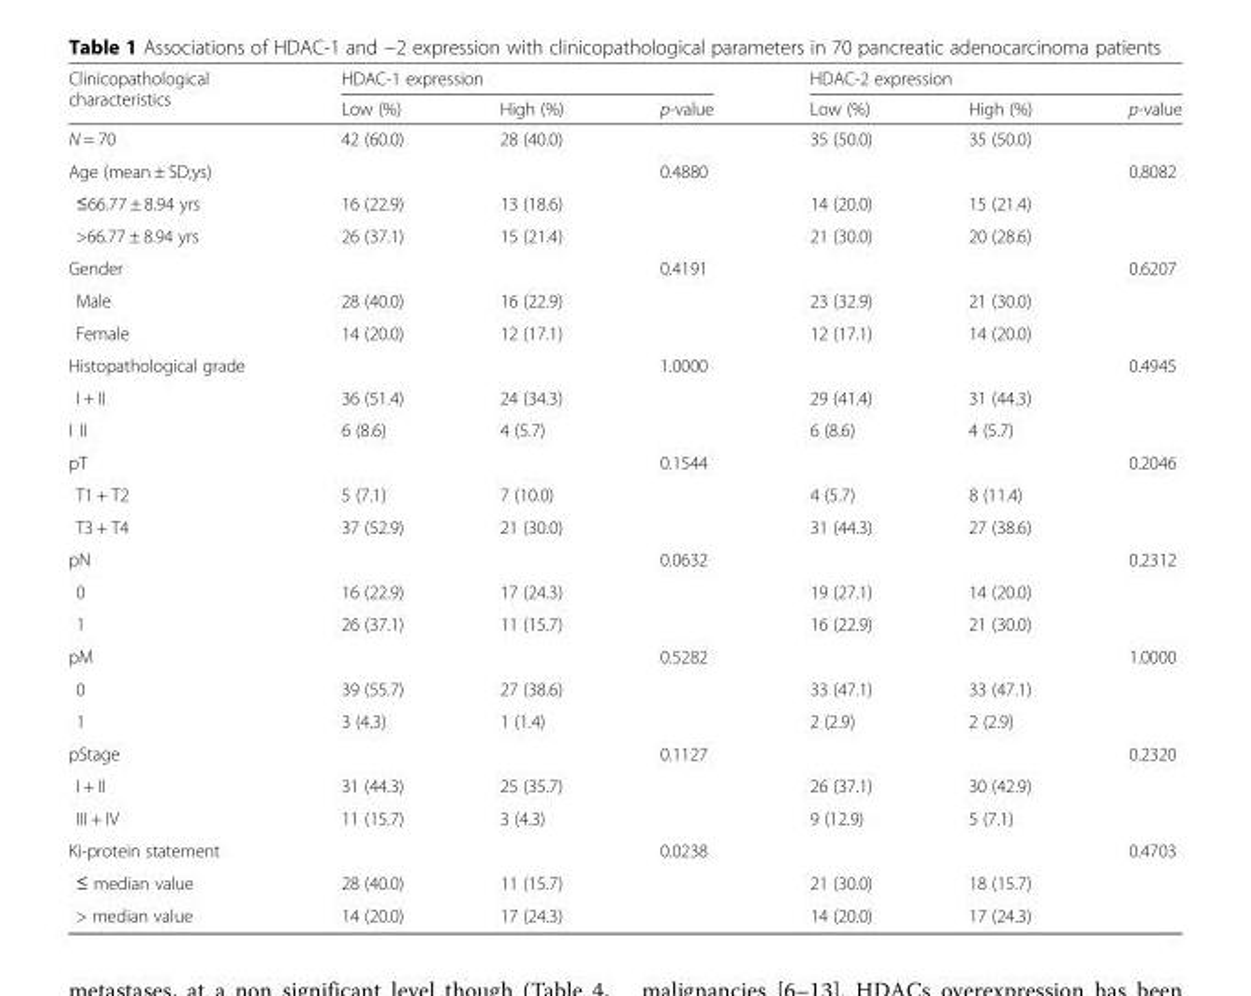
<table><thead><tr><td rowspan="2">Clinicopathological characteristics</td><td colspan="3">HDAC-1 expression</td><td colspan="3">HDAC-2 expression</td></tr><tr><td>Low (%)</td><td>High (%)</td><td>p-value</td><td>Low (%)</td><td>High (%)</td><td>p-value</td></tr></thead><tbody><tr><td>N = 70</td><td>42 (60.0)</td><td>28 (40.0)</td><td></td><td>35 (50.0)</td><td>35 (50.0)</td><td></td></tr><tr><td>Age (mean ± SD;ys)</td><td></td><td></td><td>0.4880</td><td></td><td></td><td>0.8082</td></tr><tr><td>≤66.77 ± 8.94 yrs</td><td>16 (22.9)</td><td>13 (18.6)</td><td></td><td>14 (20.0)</td><td>15 (21.4)</td><td></td></tr><tr><td>&gt;66.77 ± 8.94 yrs</td><td>26 (37.1)</td><td>15 (21.4)</td><td></td><td>21 (30.0)</td><td>20 (28.6)</td><td></td></tr><tr><td>Gender</td><td></td><td></td><td>0.4191</td><td></td><td></td><td>0.6207</td></tr><tr><td>Male</td><td>28 (40.0)</td><td>16 (22.9)</td><td></td><td>23 (32.9)</td><td>21 (30.0)</td><td></td></tr><tr><td>Female</td><td>14 (20.0)</td><td>12 (17.1)</td><td></td><td>12 (17.1)</td><td>14 (20.0)</td><td></td></tr><tr><td>Histopathological grade</td><td></td><td></td><td>1.0000</td><td></td><td></td><td>0.4945</td></tr><tr><td>I + II</td><td>36 (51.4)</td><td>24 (34.3)</td><td></td><td>29 (41.4)</td><td>31 (44.3)</td><td></td></tr><tr><td>I II</td><td>6 (8.6)</td><td>4 (5.7)</td><td></td><td>6 (8.6)</td><td>4 (5.7)</td><td></td></tr><tr><td>pT</td><td></td><td></td><td>0.1544</td><td></td><td></td><td>0.2046</td></tr><tr><td>T1 + T2</td><td>5 (7.1)</td><td>7 (10.0)</td><td></td><td>4 (5.7)</td><td>8 (11.4)</td><td></td></tr><tr><td>T3 + T4</td><td>37 (52.9)</td><td>21 (30.0)</td><td></td><td>31 (44.3)</td><td>27 (38.6)</td><td></td></tr><tr><td>pN</td><td></td><td></td><td>0.0632</td><td></td><td></td><td>0.2312</td></tr><tr><td>0</td><td>16 (22.9)</td><td>17 (24.3)</td><td></td><td>19 (27.1)</td><td>14 (20.0)</td><td></td></tr><tr><td>1</td><td>26 (37.1)</td><td>11 (15.7)</td><td></td><td>16 (22.9)</td><td>21 (30.0)</td><td></td></tr><tr><td>pM</td><td></td><td></td><td>0.5282</td><td></td><td></td><td>1.0000</td></tr><tr><td>0</td><td>39 (55.7)</td><td>27 (38.6)</td><td></td><td>33 (47.1)</td><td>33 (47.1)</td><td></td></tr><tr><td>1</td><td>3 (4.3)</td><td>1 (1.4)</td><td></td><td>2 (2.9)</td><td>2 (2.9)</td><td></td></tr><tr><td>pStage</td><td></td><td></td><td>0.1127</td><td></td><td></td><td>0.2320</td></tr><tr><td>I + II</td><td>31 (44.3)</td><td>25 (35.7)</td><td></td><td>26 (37.1)</td><td>30 (42.9)</td><td></td></tr><tr><td>III + IV</td><td>11 (15.7)</td><td>3 (4.3)</td><td></td><td>9 (12.9)</td><td>5 (7.1)</td><td></td></tr><tr><td>Ki-protein statement</td><td></td><td></td><td>0.0238</td><td></td><td></td><td>0.4703</td></tr><tr><td>≤ median value</td><td>28 (40.0)</td><td>11 (15.7)</td><td></td><td>21 (30.0)</td><td>18 (15.7)</td><td></td></tr><tr><td>&gt; median value</td><td>14 (20.0)</td><td>17 (24.3)</td><td></td><td>14 (20.0)</td><td>17 (24.3)</td><td></td></tr></tbody></table>